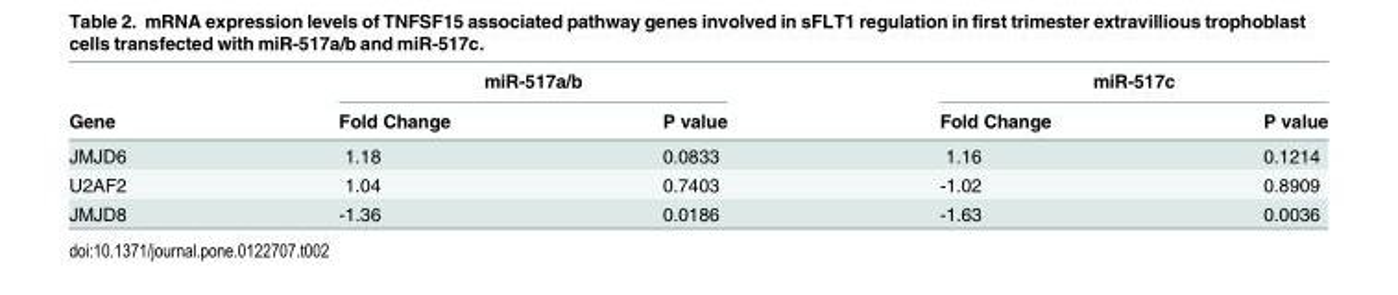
<table><thead><tr><td rowspan="2">Gene</td><td colspan="2">miR-517a/b</td><td colspan="2">miR-517c</td></tr><tr><td>Fold Change</td><td>P value</td><td>Fold Change</td><td>P value</td></tr></thead><tbody><tr><td>JMJD6</td><td>1.18</td><td>0.0833</td><td>1.16</td><td>0.1214</td></tr><tr><td>U2AF2</td><td>1.04</td><td>0.7403</td><td>-1.02</td><td>0.8909</td></tr><tr><td>JMJD8</td><td>-1.36</td><td>0.0186</td><td>-1.63</td><td>0.0036</td></tr></tbody></table>